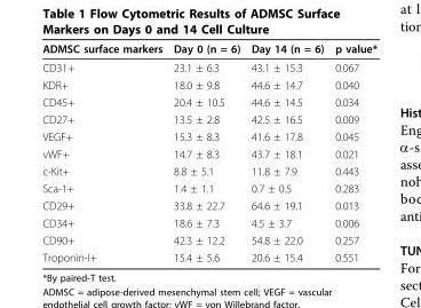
<table><thead><tr><td>ADMSC surface markers</td><td>Day 0 (n = 6)</td><td>Day 14 (n = 6)</td><td>p value*</td></tr></thead><tbody><tr><td>CD31+</td><td>23.1 ± 6.3</td><td>43.1 ± 15.3</td><td>0.067</td></tr><tr><td>KDR+</td><td>18.0 ± 9.8</td><td>44.6 ± 14.7</td><td>0.040</td></tr><tr><td>CD45+</td><td>20.4 ± 10.5</td><td>44.6 ± 14.5</td><td>0.034</td></tr><tr><td>CD27+</td><td>13.5 ± 2.8</td><td>42.5 ± 16.5</td><td>0.009</td></tr><tr><td>VEGF+</td><td>15.3 ± 8.3</td><td>41.6 ± 17.8</td><td>0.045</td></tr><tr><td>vWF+</td><td>14.7 ± 8.3</td><td>43.7 ± 18.1</td><td>0.021</td></tr><tr><td>c-Kit+</td><td>8.8 ± 5.1</td><td>11.8 ± 7.9</td><td>0.443</td></tr><tr><td>Sca-1+</td><td>1.4 ± 1.1</td><td>0.7 ± 0.5</td><td>0.283</td></tr><tr><td>CD29+</td><td>33.8 ± 22.7</td><td>64.6 ± 19.1</td><td>0.013</td></tr><tr><td>CD34+</td><td>18.6 ± 7.3</td><td>4.5 ± 3.7</td><td>0.006</td></tr><tr><td>CD90+</td><td>42.3 ± 12.2</td><td>54.8 ± 22.0</td><td>0.257</td></tr><tr><td>Troponin-I+</td><td>15.4 ± 5.6</td><td>20.6 ± 15.4</td><td>0.551</td></tr></tbody></table>